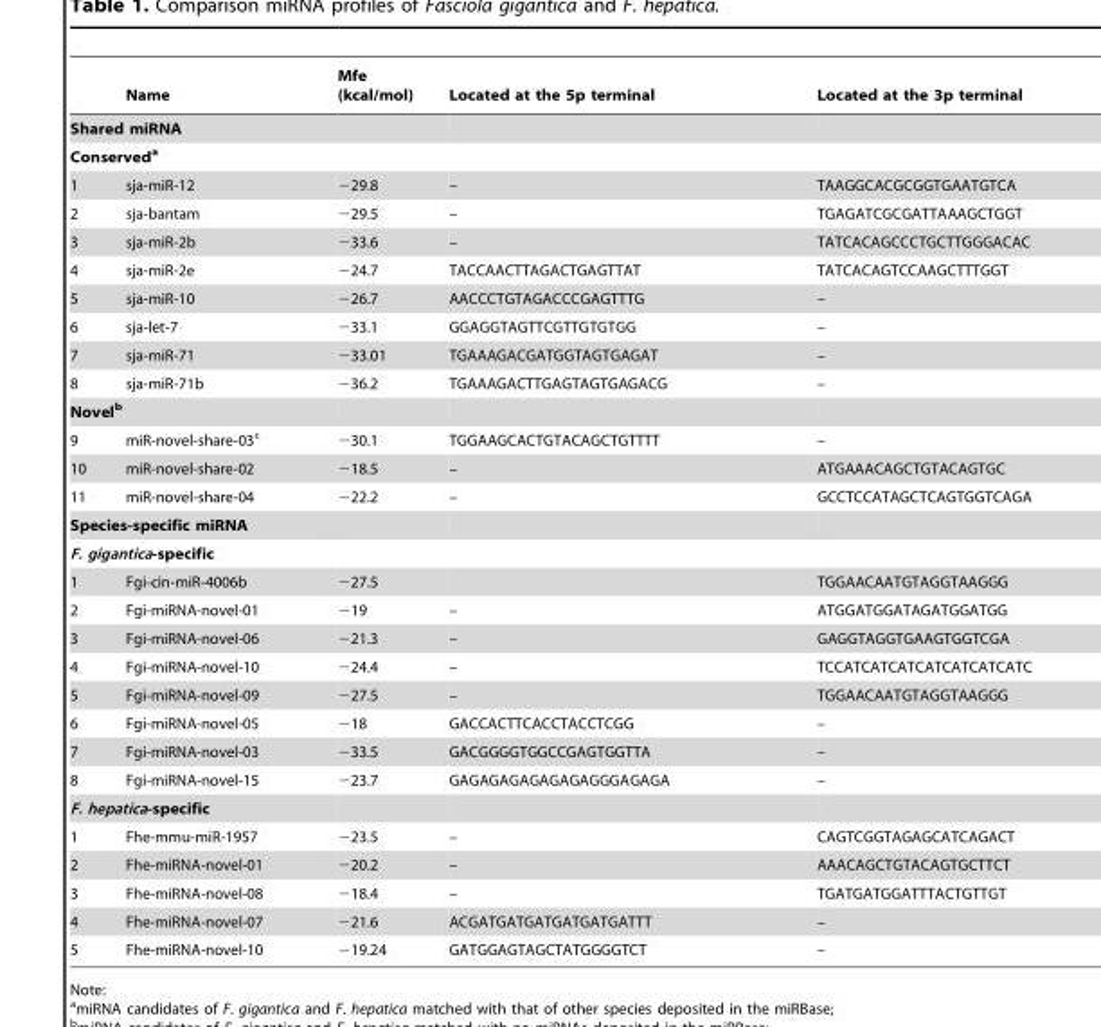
<table><thead><tr><td></td><td>Name</td><td>Mfe (kcal/mol)</td><td>Located at the 5p terminal</td><td>Located at the 3p terminal</td></tr></thead><tbody><tr><td colspan="5">Shared miRNA</td></tr><tr><td colspan="5">Conserveda</td></tr><tr><td>1</td><td>sja-miR-12</td><td>−29.8</td><td>–</td><td>TAAGGCACGCGGTGAATGTCA</td></tr><tr><td>2</td><td>sja-bantam</td><td>−29.5</td><td>–</td><td>TGAGATCGCGATTAAAGCTGGT</td></tr><tr><td>3</td><td>sja-miR-2b</td><td>−33.6</td><td>–</td><td>TATCACAGCCCTGCTTGGGACAC</td></tr><tr><td>4</td><td>sja-miR-2e</td><td>−24.7</td><td>TACCAACTTAGACTGAGTTAT</td><td>TATCACAGTCCAAGCTTTGGT</td></tr><tr><td>5</td><td>sja-miR-10</td><td>−26.7</td><td>AACCCTGTAGACCCGAGTTTG</td><td>–</td></tr><tr><td>6</td><td>sja-let-7</td><td>−33.1</td><td>GGAGGTAGTTCGTTGTGTGG</td><td>–</td></tr><tr><td>7</td><td>sja-miR-71</td><td>−33.01</td><td>TGAAAGACGATGGTAGTGAGAT</td><td>–</td></tr><tr><td>8</td><td>sja-miR-71b</td><td>−36.2</td><td>TGAAAGACTTGAGTAGTGAGACG</td><td>–</td></tr><tr><td colspan="5">Novelb</td></tr><tr><td>9</td><td>miR-novel-share-03<sup>c</sup></td><td>−30.1</td><td>TGGAAGCACTGTACAGCTGTTTT</td><td>–</td></tr><tr><td>10</td><td>miR-novel-share-02</td><td>−18.5</td><td>–</td><td>ATGAAACAGCTGTACAGTGC</td></tr><tr><td>11</td><td>miR-novel-share-04</td><td>−22.2</td><td>–</td><td>GCCTCCATAGCTCAGTGGTCAGA</td></tr><tr><td colspan="5">Species-specific miRNA</td></tr><tr><td colspan="5">F. gigantica-specific</td></tr><tr><td>1</td><td>Fgi-cin-miR-4006b</td><td>−27.5</td><td></td><td>TGGAACAATGTAGGTAAGGG</td></tr><tr><td>2</td><td>Fgi-miRNA-novel-01</td><td>−19</td><td>–</td><td>ATGGATGGATAGATGGATGG</td></tr><tr><td>3</td><td>Fgi-miRNA-novel-06</td><td>−21.3</td><td>–</td><td>GAGGTAGGTGAAGTGGTCGA</td></tr><tr><td>4</td><td>Fgi-miRNA-novel-10</td><td>−24.4</td><td>–</td><td>TCCATCATCATCATCATCATCATC</td></tr><tr><td>5</td><td>Fgi-miRNA-novel-09</td><td>−27.5</td><td>–</td><td>TGGAACAATGTAGGTAAGGG</td></tr><tr><td>6</td><td>Fgi-miRNA-novel-05</td><td>−18</td><td>GACCACTTCACCTACCTCGG</td><td>–</td></tr><tr><td>7</td><td>Fgi-miRNA-novel-03</td><td>−33.5</td><td>GACGGGGTGGCCGAGTGGTTA</td><td>–</td></tr><tr><td>8</td><td>Fgi-miRNA-novel-15</td><td>−23.7</td><td>GAGAGAGAGAGAGAGGGAGAGA</td><td>–</td></tr><tr><td colspan="5">F. hepatica-specific</td></tr><tr><td>1</td><td>Fhe-mmu-miR-1957</td><td>−23.5</td><td>–</td><td>CAGTCGGTAGAGCATCAGACT</td></tr><tr><td>2</td><td>Fhe-miRNA-novel-01</td><td>−20.2</td><td>–</td><td>AAACAGCTGTACAGTGCTTCT</td></tr><tr><td>3</td><td>Fhe-miRNA-novel-08</td><td>−18.4</td><td>–</td><td>TGATGATGGATTTACTGTTGT</td></tr><tr><td>4</td><td>Fhe-miRNA-novel-07</td><td>−21.6</td><td>ACGATGATGATGATGATGATTT</td><td>–</td></tr><tr><td>5</td><td>Fhe-miRNA-novel-10</td><td>−19.24</td><td>GATGGAGTAGCTATGGGGTCT</td><td>–</td></tr></tbody></table>